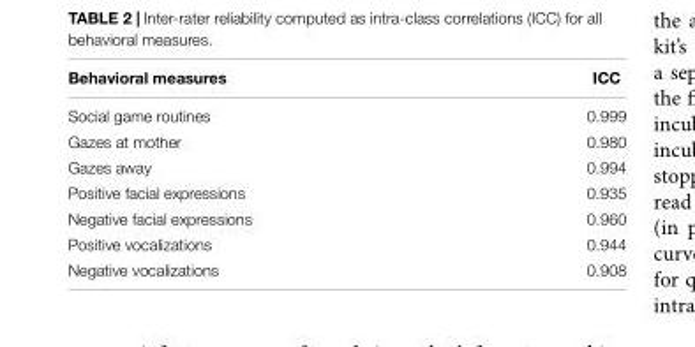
<table><thead><tr><td>Behavioral measures</td><td>ICC</td></tr></thead><tbody><tr><td>Social game routines</td><td>0.999</td></tr><tr><td>Gazes at mother</td><td>0.980</td></tr><tr><td>Gazes away</td><td>0.994</td></tr><tr><td>Positive facial expressions</td><td>0.935</td></tr><tr><td>Negative facial expressions</td><td>0.960</td></tr><tr><td>Positive vocalizations</td><td>0.944</td></tr><tr><td>Negative vocalizations</td><td>0.908</td></tr></tbody></table>